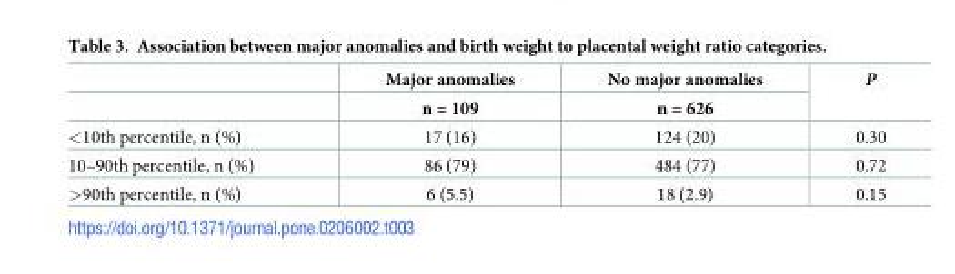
<table><thead><tr><td rowspan="2"></td><td rowspan="2">Major anomalies n = 109</td><td rowspan="2">No major anomalies n = 626</td><td rowspan="2">P</td></tr><tr></tr></thead><tbody><tr><td>&lt;10th percentile, n (%)</td><td>17 (16)</td><td>124 (20)</td><td>0.30</td></tr><tr><td>10–90th percentile, n (%)</td><td>86 (79)</td><td>484 (77)</td><td>0.72</td></tr><tr><td>&gt;90th percentile, n (%)</td><td>6 (5.5)</td><td>18 (2.9)</td><td>0.15</td></tr></tbody></table>